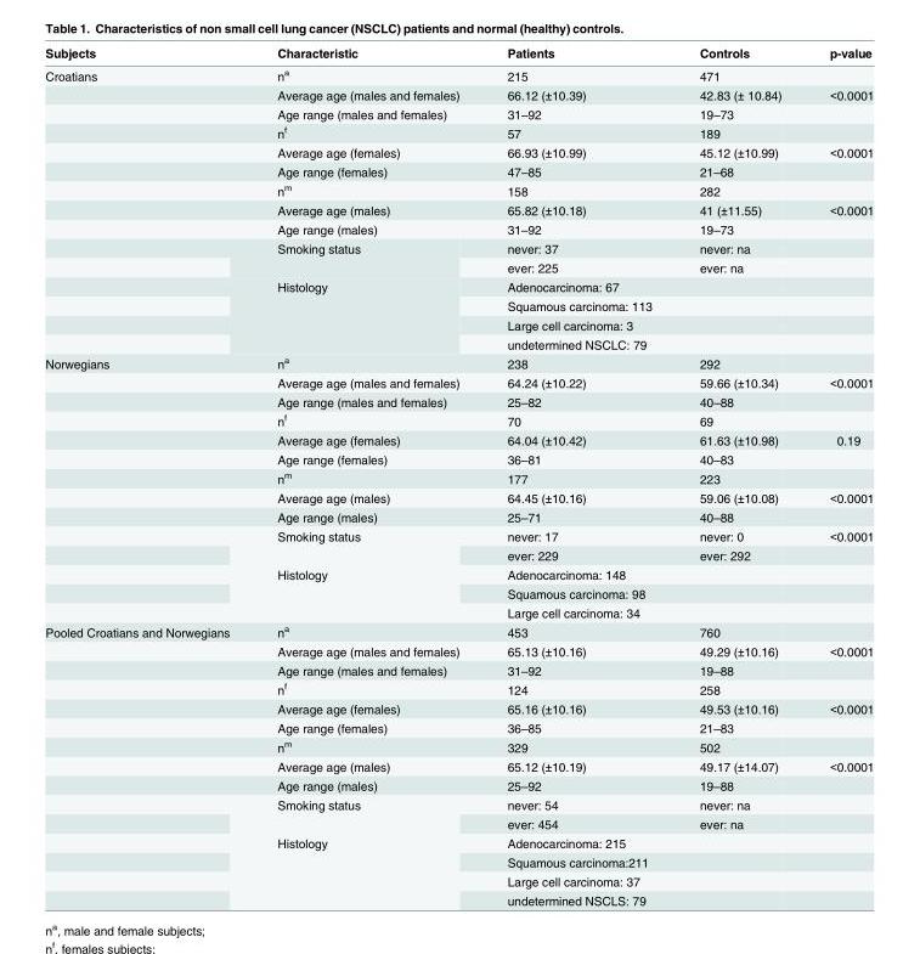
<table><thead><tr><td>Subjects</td><td>Characteristic</td><td>Patients</td><td>Controls</td><td>p-value</td></tr></thead><tbody><tr><td rowspan="15">Croatians</td><td>n<sup>a</sup></td><td>215</td><td>471</td><td></td></tr><tr><td>Average age (males and females)</td><td>66.12 (±10.39)</td><td>42.83 (± 10.84)</td><td>&lt;0.0001</td></tr><tr><td>Age range (males and females)</td><td>31–92</td><td>19–73</td><td></td></tr><tr><td>n<sup>f</sup></td><td>57</td><td>189</td><td></td></tr><tr><td>Average age (females)</td><td>66.93 (±10.99)</td><td>45.12 (±10.99)</td><td>&lt;0.0001</td></tr><tr><td>Age range (females)</td><td>47–85</td><td>21–68</td><td></td></tr><tr><td>n<sup>m</sup></td><td>158</td><td>282</td><td></td></tr><tr><td>Average age (males)</td><td>65.82 (±10.18)</td><td>41 (±11.55)</td><td>&lt;0.0001</td></tr><tr><td>Age range (males)</td><td>31–92</td><td>19–73</td><td></td></tr><tr><td rowspan="2">Smoking status</td><td>never: 37</td><td>never: na</td><td></td></tr><tr><td>ever: 225</td><td>ever: na</td><td></td></tr><tr><td rowspan="4">Histology</td><td>Adenocarcinoma: 67</td><td></td><td></td></tr><tr><td>Squamous carcinoma: 113</td><td></td><td></td></tr><tr><td>Large cell carcinoma: 3</td><td></td><td></td></tr><tr><td>undetermined NSCLC: 79</td><td></td><td></td></tr><tr><td rowspan="14">Norwegians</td><td>n<sup>a</sup></td><td>238</td><td>292</td><td></td></tr><tr><td>Average age (males and females)</td><td>64.24 (±10.22)</td><td>59.66 (±10.34)</td><td>&lt;0.0001</td></tr><tr><td>Age range (males and females)</td><td>25–82</td><td>40–88</td><td></td></tr><tr><td>n<sup>f</sup></td><td>70</td><td>69</td><td></td></tr><tr><td>Average age (females)</td><td>64.04 (±10.42)</td><td>61.63 (±10.98)</td><td>0.19</td></tr><tr><td>Age range (females)</td><td>36–81</td><td>40–83</td><td></td></tr><tr><td>n<sup>m</sup></td><td>177</td><td>223</td><td></td></tr><tr><td>Average age (males)</td><td>64.45 (±10.16)</td><td>59.06 (±10.08)</td><td>&lt;0.0001</td></tr><tr><td>Age range (males)</td><td>25–71</td><td>40–88</td><td></td></tr><tr><td rowspan="2">Smoking status</td><td>never: 17</td><td>never: 0</td><td>&lt;0.0001</td></tr><tr><td>ever: 229</td><td>ever: 292</td><td></td></tr><tr><td rowspan="3">Histology</td><td>Adenocarcinoma: 148</td><td></td><td></td></tr><tr><td>Squamous carcinoma: 98</td><td></td><td></td></tr><tr><td>Large cell carcinoma: 34</td><td></td><td></td></tr><tr><td rowspan="15">Pooled Croatians and Norwegians</td><td>n<sup>a</sup></td><td>453</td><td>760</td><td></td></tr><tr><td>Average age (males and females)</td><td>65.13 (±10.16)</td><td>49.29 (±10.16)</td><td>&lt;0.0001</td></tr><tr><td>Age range (males and females)</td><td>31–92</td><td>19–88</td><td></td></tr><tr><td>n<sup>f</sup></td><td>124</td><td>258</td><td></td></tr><tr><td>Average age (females)</td><td>65.16 (±10.16)</td><td>49.53 (±10.16)</td><td>&lt;0.0001</td></tr><tr><td>Age range (females)</td><td>36–85</td><td>21–83</td><td></td></tr><tr><td>n<sup>m</sup></td><td>329</td><td>502</td><td></td></tr><tr><td>Average age (males)</td><td>65.12 (±10.19)</td><td>49.17 (±14.07)</td><td>&lt;0.0001</td></tr><tr><td>Age range (males)</td><td>25–92</td><td>19–88</td><td></td></tr><tr><td rowspan="2">Smoking status</td><td>never: 54</td><td>never: na</td><td></td></tr><tr><td>ever: 454</td><td>ever: na</td><td></td></tr><tr><td rowspan="4">Histology</td><td>Adenocarcinoma: 215</td><td></td><td></td></tr><tr><td>Squamous carcinoma:211</td><td></td><td></td></tr><tr><td>Large cell carcinoma: 37</td><td></td><td></td></tr><tr><td>undetermined NSCLS: 79</td><td></td><td></td></tr></tbody></table>